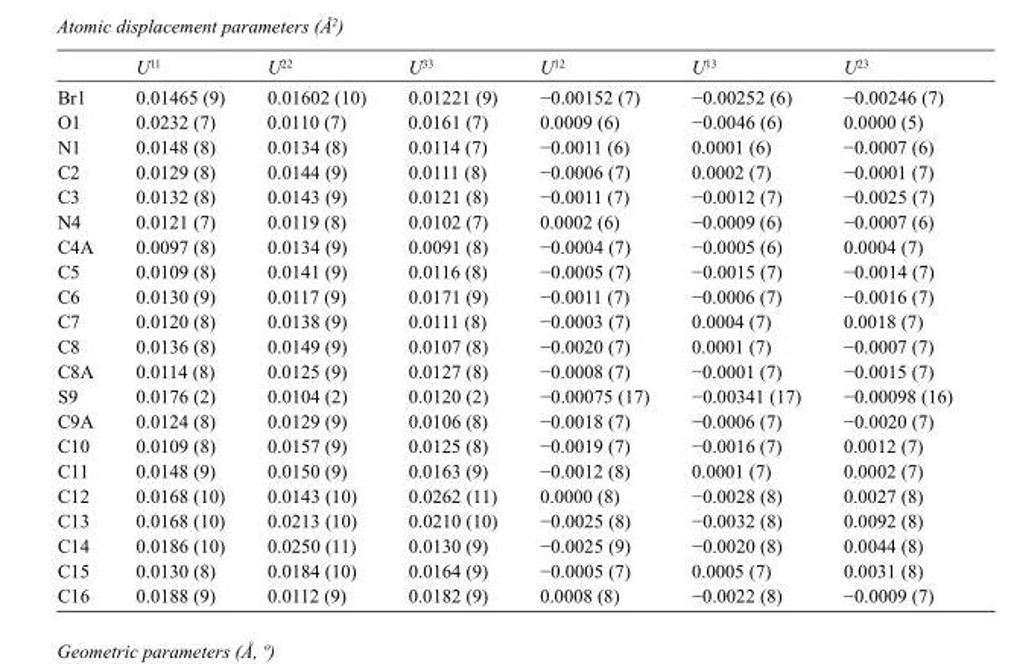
<table><thead><tr><td></td><td>U<sup>11</sup></td><td>U<sup>22</sup></td><td>U<sup>33</sup></td><td>U<sup>12</sup></td><td>U<sup>13</sup></td><td>U<sup>23</sup></td></tr></thead><tbody><tr><td>Br1</td><td>0.01465 (9)</td><td>0.01602 (10)</td><td>0.01221 (9)</td><td>−0.00152 (7)</td><td>−0.00252 (6)</td><td>−0.00246 (7)</td></tr><tr><td>O1</td><td>0.0232 (7)</td><td>0.0110 (7)</td><td>0.0161 (7)</td><td>0.0009 (6)</td><td>−0.0046 (6)</td><td>0.0000 (5)</td></tr><tr><td>N1</td><td>0.0148 (8)</td><td>0.0134 (8)</td><td>0.0114 (7)</td><td>−0.0011 (6)</td><td>0.0001 (6)</td><td>−0.0007 (6)</td></tr><tr><td>C2</td><td>0.0129 (8)</td><td>0.0144 (9)</td><td>0.0111 (8)</td><td>−0.0006 (7)</td><td>0.0002 (7)</td><td>−0.0001 (7)</td></tr><tr><td>C3</td><td>0.0132 (8)</td><td>0.0143 (9)</td><td>0.0121 (8)</td><td>−0.0011 (7)</td><td>−0.0012 (7)</td><td>−0.0025 (7)</td></tr><tr><td>N4</td><td>0.0121 (7)</td><td>0.0119 (8)</td><td>0.0102 (7)</td><td>0.0002 (6)</td><td>−0.0009 (6)</td><td>−0.0007 (6)</td></tr><tr><td>C4A</td><td>0.0097 (8)</td><td>0.0134 (9)</td><td>0.0091 (8)</td><td>−0.0004 (7)</td><td>−0.0005 (6)</td><td>0.0004 (7)</td></tr><tr><td>C5</td><td>0.0109 (8)</td><td>0.0141 (9)</td><td>0.0116 (8)</td><td>−0.0005 (7)</td><td>−0.0015 (7)</td><td>−0.0014 (7)</td></tr><tr><td>C6</td><td>0.0130 (9)</td><td>0.0117 (9)</td><td>0.0171 (9)</td><td>−0.0011 (7)</td><td>−0.0006 (7)</td><td>−0.0016 (7)</td></tr><tr><td>C7</td><td>0.0120 (8)</td><td>0.0138 (9)</td><td>0.0111 (8)</td><td>−0.0003 (7)</td><td>0.0004 (7)</td><td>0.0018 (7)</td></tr><tr><td>C8</td><td>0.0136 (8)</td><td>0.0149 (9)</td><td>0.0107 (8)</td><td>−0.0020 (7)</td><td>0.0001 (7)</td><td>−0.0007 (7)</td></tr><tr><td>C8A</td><td>0.0114 (8)</td><td>0.0125 (9)</td><td>0.0127 (8)</td><td>−0.0008 (7)</td><td>−0.0001 (7)</td><td>−0.0015 (7)</td></tr><tr><td>S9</td><td>0.0176 (2)</td><td>0.0104 (2)</td><td>0.0120 (2)</td><td>−0.00075 (17)</td><td>−0.00341 (17)</td><td>−0.00098 (16)</td></tr><tr><td>C9A</td><td>0.0124 (8)</td><td>0.0129 (9)</td><td>0.0106 (8)</td><td>−0.0018 (7)</td><td>−0.0006 (7)</td><td>−0.0020 (7)</td></tr><tr><td>C10</td><td>0.0109 (8)</td><td>0.0157 (9)</td><td>0.0125 (8)</td><td>−0.0019 (7)</td><td>−0.0016 (7)</td><td>0.0012 (7)</td></tr><tr><td>C11</td><td>0.0148 (9)</td><td>0.0150 (9)</td><td>0.0163 (9)</td><td>−0.0012 (8)</td><td>0.0001 (7)</td><td>0.0002 (7)</td></tr><tr><td>C12</td><td>0.0168 (10)</td><td>0.0143 (10)</td><td>0.0262 (11)</td><td>0.0000 (8)</td><td>−0.0028 (8)</td><td>0.0027 (8)</td></tr><tr><td>C13</td><td>0.0168 (10)</td><td>0.0213 (10)</td><td>0.0210 (10)</td><td>−0.0025 (8)</td><td>−0.0032 (8)</td><td>0.0092 (8)</td></tr><tr><td>C14</td><td>0.0186 (10)</td><td>0.0250 (11)</td><td>0.0130 (9)</td><td>−0.0025 (9)</td><td>−0.0020 (8)</td><td>0.0044 (8)</td></tr><tr><td>C15</td><td>0.0130 (8)</td><td>0.0184 (10)</td><td>0.0164 (9)</td><td>−0.0005 (7)</td><td>0.0005 (7)</td><td>0.0031 (8)</td></tr><tr><td>C16</td><td>0.0188 (9)</td><td>0.0112 (9)</td><td>0.0182 (9)</td><td>0.0008 (8)</td><td>−0.0022 (8)</td><td>−0.0009 (7)</td></tr></tbody></table>